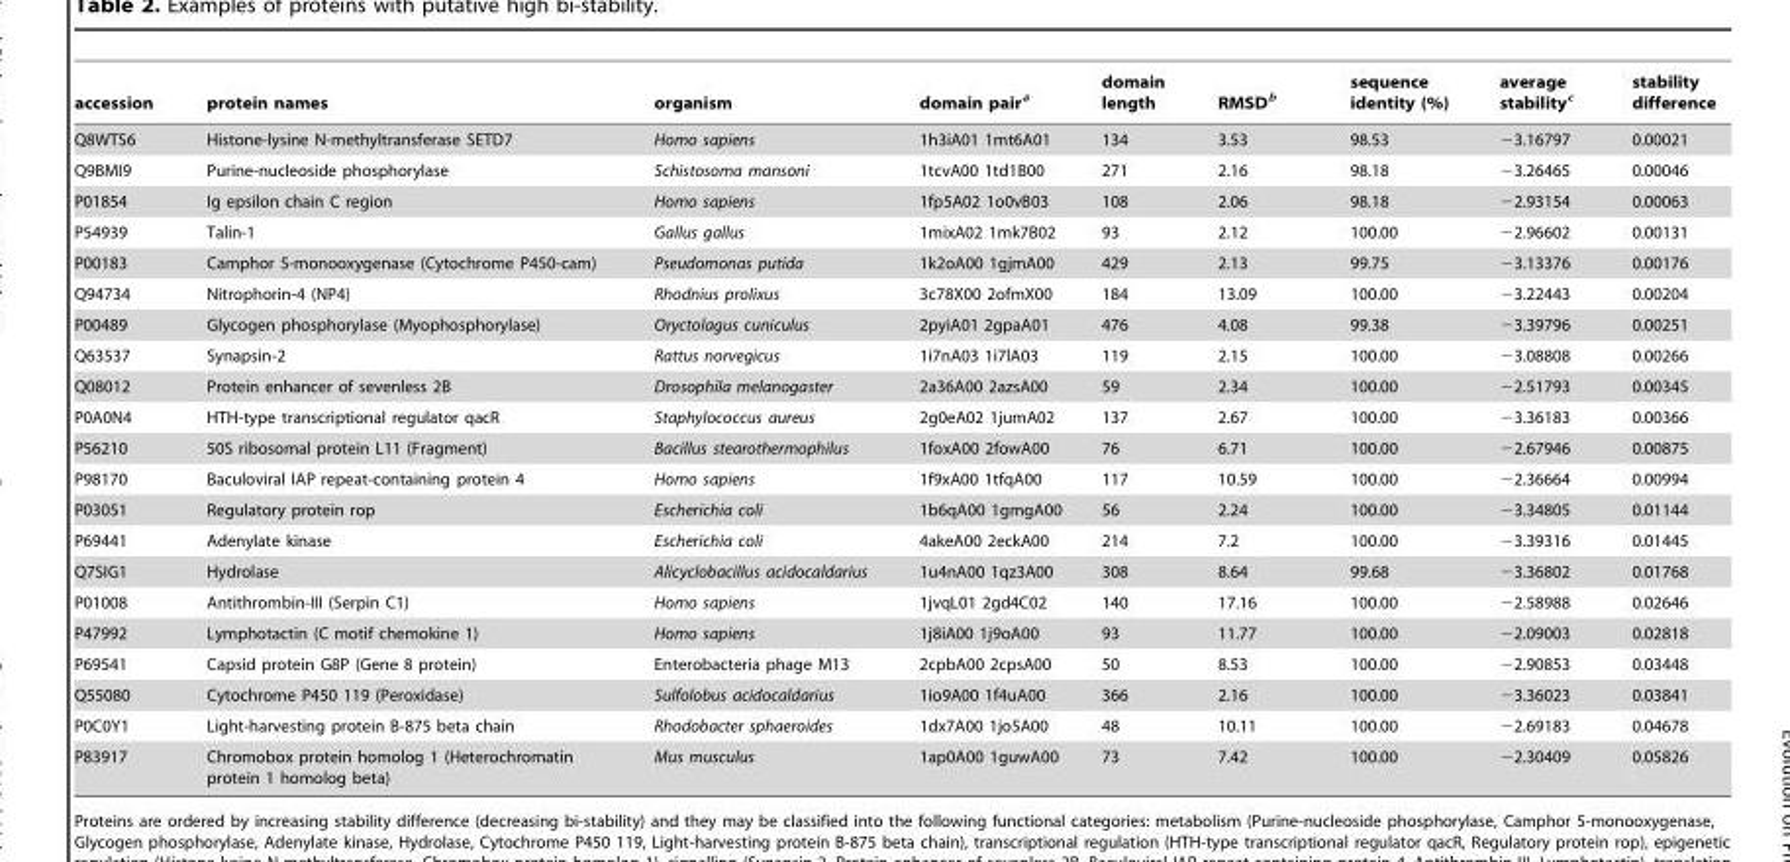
<table><thead><tr><td>accession</td><td>protein names</td><td>organism</td><td>domain pair<sup>a</sup></td><td>domain length</td><td>RMSD<sup>b</sup></td><td>sequence identity (%)</td><td>average stability<sup>c</sup></td><td>stability difference</td></tr></thead><tbody><tr><td>Q8WTS6</td><td>Histone-lysine N-methyltransferase SETD7</td><td>Homo sapiens</td><td>1h3iA01 1mt6A01</td><td>134</td><td>3.53</td><td>98.53</td><td>−3.16797</td><td>0.00021</td></tr><tr><td>Q9BMI9</td><td>Purine-nucleoside phosphorylase</td><td>Schistosoma mansoni</td><td>1tcvA00 1td1B00</td><td>271</td><td>2.16</td><td>98.18</td><td>−3.26465</td><td>0.00046</td></tr><tr><td>P01854</td><td>Ig epsilon chain C region</td><td>Homo sapiens</td><td>1fp5A02 1o0vB03</td><td>108</td><td>2.06</td><td>98.18</td><td>−2.93154</td><td>0.00063</td></tr><tr><td>P54939</td><td>Talin-1</td><td>Gallus gallus</td><td>1mixA02 1mk7B02</td><td>93</td><td>2.12</td><td>100.00</td><td>−2.96602</td><td>0.00131</td></tr><tr><td>P00183</td><td>Camphor 5-monooxygenase (Cytochrome P450-cam)</td><td>Pseudomonas putida</td><td>1k2oA00 1gjmA00</td><td>429</td><td>2.13</td><td>99.75</td><td>−3.13376</td><td>0.00176</td></tr><tr><td>Q94734</td><td>Nitrophorin-4 (NP4)</td><td>Rhodnius prolixus</td><td>3c78X00 2ofmX00</td><td>184</td><td>13.09</td><td>100.00</td><td>−3.22443</td><td>0.00204</td></tr><tr><td>P00489</td><td>Glycogen phosphorylase (Myophosphorylase)</td><td>Oryctolagus cuniculus</td><td>2pyiA01 2gpaA01</td><td>476</td><td>4.08</td><td>99.38</td><td>−3.39796</td><td>0.00251</td></tr><tr><td>Q63537</td><td>Synapsin-2</td><td>Rattus norvegicus</td><td>1i7nA03 1i7lA03</td><td>119</td><td>2.15</td><td>100.00</td><td>−3.08808</td><td>0.00266</td></tr><tr><td>Q08012</td><td>Protein enhancer of sevenless 2B</td><td>Drosophila melanogaster</td><td>2a36A00 2azsA00</td><td>59</td><td>2.34</td><td>100.00</td><td>−2.51793</td><td>0.00345</td></tr><tr><td>P0A0N4</td><td>HTH-type transcriptional regulator qacR</td><td>Staphylococcus aureus</td><td>2g0eA02 1jumA02</td><td>137</td><td>2.67</td><td>100.00</td><td>−3.36183</td><td>0.00366</td></tr><tr><td>P56210</td><td>50S ribosomal protein L11 (Fragment)</td><td>Bacillus stearothermophilus</td><td>1foxA00 2fowA00</td><td>76</td><td>6.71</td><td>100.00</td><td>−2.67946</td><td>0.00875</td></tr><tr><td>P98170</td><td>Baculoviral IAP repeat-containing protein 4</td><td>Homo sapiens</td><td>1f9xA00 1tfqA00</td><td>117</td><td>10.59</td><td>100.00</td><td>−2.36664</td><td>0.00994</td></tr><tr><td>P03051</td><td>Regulatory protein rop</td><td>Escherichia coli</td><td>1b6qA00 1gmgA00</td><td>56</td><td>2.24</td><td>100.00</td><td>−3.34805</td><td>0.01144</td></tr><tr><td>P69441</td><td>Adenylate kinase</td><td>Escherichia coli</td><td>4akeA00 2eckA00</td><td>214</td><td>7.2</td><td>100.00</td><td>−3.39316</td><td>0.01445</td></tr><tr><td>Q7SIG1</td><td>Hydrolase</td><td>Alicyclobacillus acidocaldarius</td><td>1u4nA00 1qz3A00</td><td>308</td><td>8.64</td><td>99.68</td><td>−3.36802</td><td>0.01768</td></tr><tr><td>P01008</td><td>Antithrombin-III (Serpin C1)</td><td>Homo sapiens</td><td>1jvqL01 2gd4C02</td><td>140</td><td>17.16</td><td>100.00</td><td>−2.58988</td><td>0.02646</td></tr><tr><td>P47992</td><td>Lymphotactin (C motif chemokine 1)</td><td>Homo sapiens</td><td>1j8iA00 1j9oA00</td><td>93</td><td>11.77</td><td>100.00</td><td>−2.09003</td><td>0.02818</td></tr><tr><td>P69541</td><td>Capsid protein G8P (Gene 8 protein)</td><td>Enterobacteria phage M13</td><td>2cpbA00 2cpsA00</td><td>50</td><td>8.53</td><td>100.00</td><td>−2.90853</td><td>0.03448</td></tr><tr><td>Q55080</td><td>Cytochrome P450 119 (Peroxidase)</td><td>Sulfolobus acidocaldarius</td><td>1io9A00 1f4uA00</td><td>366</td><td>2.16</td><td>100.00</td><td>−3.36023</td><td>0.03841</td></tr><tr><td>P0C0Y1</td><td>Light-harvesting protein B-875 beta chain</td><td>Rhodobacter sphaeroides</td><td>1dx7A00 1jo5A00</td><td>48</td><td>10.11</td><td>100.00</td><td>−2.69183</td><td>0.04678</td></tr><tr><td>P83917</td><td>Chromobox protein homolog 1 (Heterochromatin protein 1 homolog beta)</td><td>Mus musculus</td><td>1ap0A00 1guwA00</td><td>73</td><td>7.42</td><td>100.00</td><td>−2.30409</td><td>0.05826</td></tr></tbody></table>